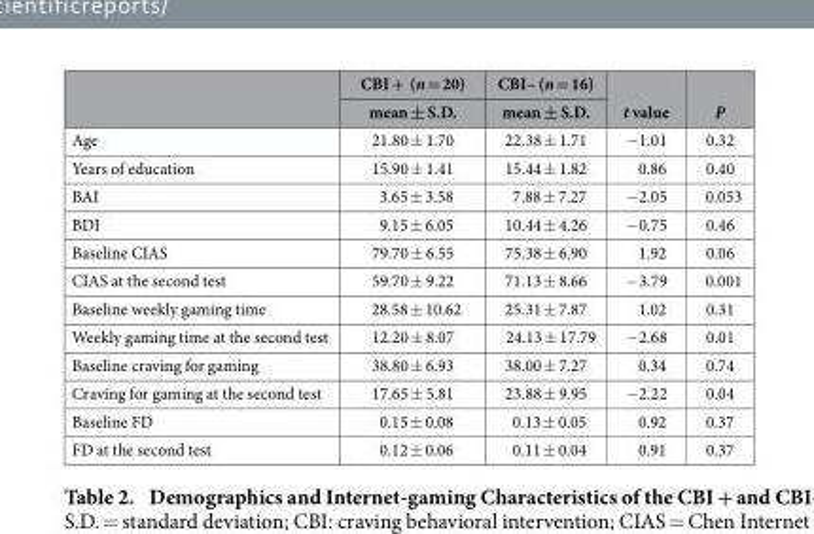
<table><thead><tr><td rowspan="2"></td><td rowspan="2">CBI + (n = 20) mean ± S.D.</td><td rowspan="2">CBI– (n = 16) mean ± S.D.</td><td rowspan="2">t value</td><td rowspan="2">P</td></tr><tr></tr></thead><tbody><tr><td>Age</td><td>21.80 ± 1.70</td><td>22.38 ± 1.71</td><td>− 1.01</td><td>0.32</td></tr><tr><td>Years of education</td><td>15.90 ± 1.41</td><td>15.44 ± 1.82</td><td>0.86</td><td>0.40</td></tr><tr><td>BAI</td><td>3.65 ± 3.58</td><td>7.88 ± 7.27</td><td>− 2.05</td><td>0.053</td></tr><tr><td>BDI</td><td>9.15 ± 6.05</td><td>10.44 ± 4.26</td><td>− 0.75</td><td>0.46</td></tr><tr><td>Baseline CIAS</td><td>79.70 ± 6.55</td><td>75.38 ± 6.90</td><td>1.92</td><td>0.06</td></tr><tr><td>CIAS at the second test</td><td>59.70 ± 9.22</td><td>71.13 ± 8.66</td><td>− 3.79</td><td>0.001</td></tr><tr><td>Baseline weekly gaming time</td><td>28.58 ± 10.62</td><td>25.31 ± 7.87</td><td>1.02</td><td>0.31</td></tr><tr><td>Weekly gaming time at the second test</td><td>12.20 ± 8.07</td><td>24.13 ± 17.79</td><td>− 2.68</td><td>0.01</td></tr><tr><td>Baseline craving for gaming</td><td>38.80 ± 6.93</td><td>38.00 ± 7.27</td><td>0.34</td><td>0.74</td></tr><tr><td>Craving for gaming at the second test</td><td>17.65 ± 5.81</td><td>23.88 ± 9.95</td><td>− 2.22</td><td>0.04</td></tr><tr><td>Baseline FD</td><td>0.15 ± 0.08</td><td>0.13 ± 0.05</td><td>0.92</td><td>0.37</td></tr><tr><td>FD at the second test</td><td>0.12 ± 0.06</td><td>0.11 ± 0.04</td><td>0.91</td><td>0.37</td></tr></tbody></table>